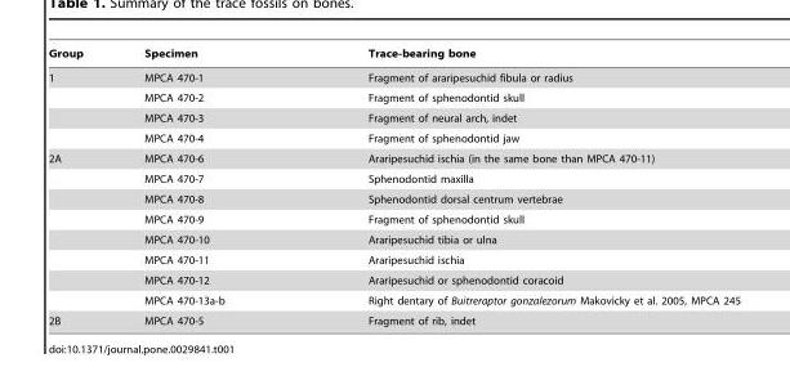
<table><thead><tr><td>Group</td><td>Specimen</td><td>Trace-bearing bone</td></tr></thead><tbody><tr><td rowspan="4">1</td><td>MPCA 470-1</td><td>Fragment of araripesuchid fibula or radius</td></tr><tr><td>MPCA 470-2</td><td>Fragment of sphenodontid skull</td></tr><tr><td>MPCA 470-3</td><td>Fragment of neural arch, indet</td></tr><tr><td>MPCA 470-4</td><td>Fragment of sphenodontid jaw</td></tr><tr><td rowspan="8">2A</td><td>MPCA 470-6</td><td>Araripesuchid ischia (in the same bone than MPCA 470-11)</td></tr><tr><td>MPCA 470-7</td><td>Sphenodontid maxilla</td></tr><tr><td>MPCA 470-8</td><td>Sphenodontid dorsal centrum vertebrae</td></tr><tr><td>MPCA 470-9</td><td>Fragment of sphenodontid skull</td></tr><tr><td>MPCA 470-10</td><td>Araripesuchid tibia or ulna</td></tr><tr><td>MPCA 470-11</td><td>Araripesuchid ischia</td></tr><tr><td>MPCA 470-12</td><td>Araripesuchid or sphenodontid coracoid</td></tr><tr><td>MPCA 470-13a-b</td><td>Right dentary of Buitreraptor gonzalezorum Makovicky et al. 2005, MPCA 245</td></tr><tr><td>2B</td><td>MPCA 470-5</td><td>Fragment of rib, indet</td></tr></tbody></table>